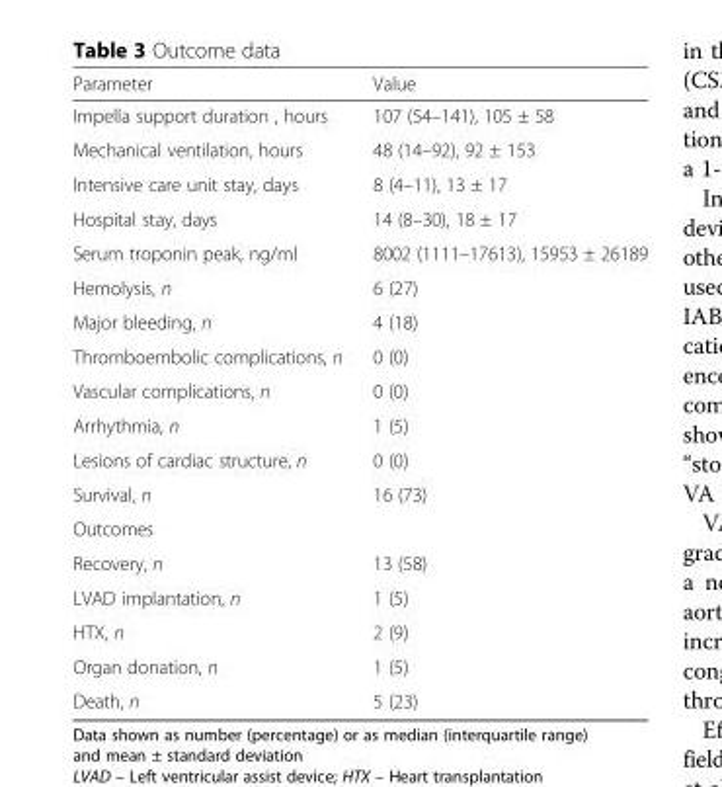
<table><thead><tr><td>Parameter</td><td>Value</td></tr></thead><tbody><tr><td>Impella support duration , hours</td><td>107 (54–141), 105 ± 58</td></tr><tr><td>Mechanical ventilation, hours</td><td>48 (14–92), 92 ± 153</td></tr><tr><td>Intensive care unit stay, days</td><td>8 (4–11), 13 ± 17</td></tr><tr><td>Hospital stay, days</td><td>14 (8–30), 18 ± 17</td></tr><tr><td>Serum troponin peak, ng/ml</td><td>8002 (1111–17613), 15953 ± 26189</td></tr><tr><td>Hemolysis, n</td><td>6 (27)</td></tr><tr><td>Major bleeding, n</td><td>4 (18)</td></tr><tr><td>Thromboembolic complications, n</td><td>0 (0)</td></tr><tr><td>Vascular complications, n</td><td>0 (0)</td></tr><tr><td>Arrhythmia, n</td><td>1 (5)</td></tr><tr><td>Lesions of cardiac structure, n</td><td>0 (0)</td></tr><tr><td>Survival, n</td><td>16 (73)</td></tr><tr><td colspan="2">Outcomes</td></tr><tr><td>Recovery, n</td><td>13 (58)</td></tr><tr><td>LVAD implantation, n</td><td>1 (5)</td></tr><tr><td>HTX, n</td><td>2 (9)</td></tr><tr><td>Organ donation, n</td><td>1 (5)</td></tr><tr><td>Death, n</td><td>5 (23)</td></tr></tbody></table>